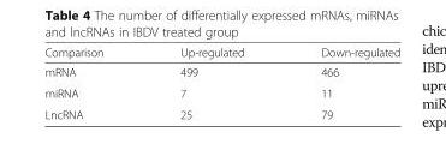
<table><thead><tr><td>Comparison</td><td>Up-regulated</td><td>Down-regulated</td></tr></thead><tbody><tr><td>mRNA</td><td>499</td><td>466</td></tr><tr><td>miRNA</td><td>7</td><td>11</td></tr><tr><td>LncRNA</td><td>25</td><td>79</td></tr></tbody></table>